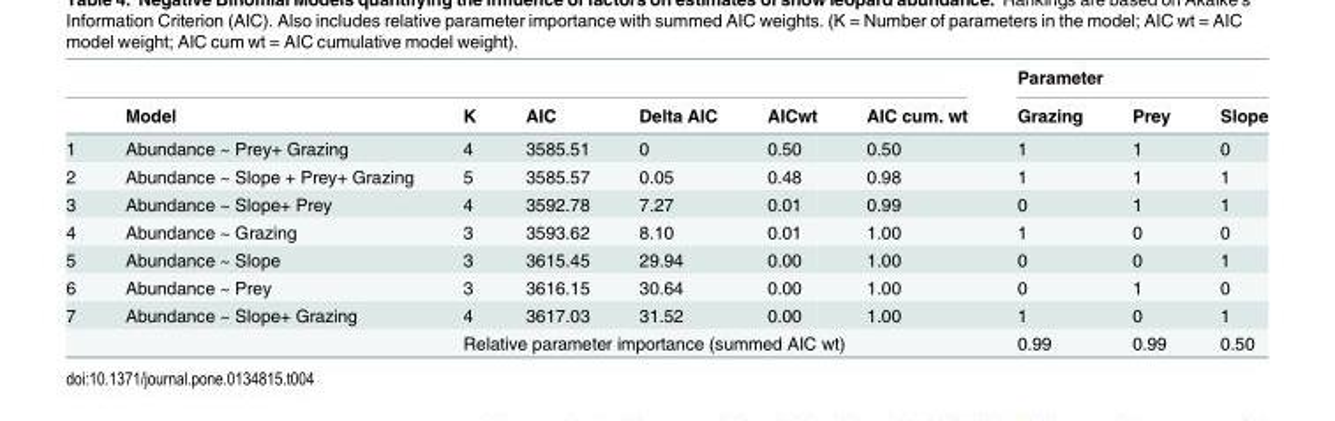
<table><thead><tr><td rowspan="2"></td><td rowspan="2">Model</td><td rowspan="2">K</td><td rowspan="2">AIC</td><td rowspan="2">Delta AIC</td><td rowspan="2">AICwt</td><td rowspan="2">AIC cum. wt</td><td colspan="3">Parameter</td></tr><tr><td>Grazing</td><td>Prey</td><td>Slope</td></tr></thead><tbody><tr><td>1</td><td>Abundance ~ Prey+ Grazing</td><td>4</td><td>3585.51</td><td>0</td><td>0.50</td><td>0.50</td><td>1</td><td>1</td><td>0</td></tr><tr><td>2</td><td>Abundance ~ Slope + Prey+ Grazing</td><td>5</td><td>3585.57</td><td>0.05</td><td>0.48</td><td>0.98</td><td>1</td><td>1</td><td>1</td></tr><tr><td>3</td><td>Abundance ~ Slope+ Prey</td><td>4</td><td>3592.78</td><td>7.27</td><td>0.01</td><td>0.99</td><td>0</td><td>1</td><td>1</td></tr><tr><td>4</td><td>Abundance ~ Grazing</td><td>3</td><td>3593.62</td><td>8.10</td><td>0.01</td><td>1.00</td><td>1</td><td>0</td><td>0</td></tr><tr><td>5</td><td>Abundance ~ Slope</td><td>3</td><td>3615.45</td><td>29.94</td><td>0.00</td><td>1.00</td><td>0</td><td>0</td><td>1</td></tr><tr><td>6</td><td>Abundance ~ Prey</td><td>3</td><td>3616.15</td><td>30.64</td><td>0.00</td><td>1.00</td><td>0</td><td>1</td><td>0</td></tr><tr><td>7</td><td>Abundance ~ Slope+ Grazing</td><td>4</td><td>3617.03</td><td>31.52</td><td>0.00</td><td>1.00</td><td>1</td><td>0</td><td>1</td></tr><tr><td colspan="2"></td><td colspan="5">Relative parameter importance (summed AIC wt)</td><td>0.99</td><td>0.99</td><td>0.50</td></tr></tbody></table>